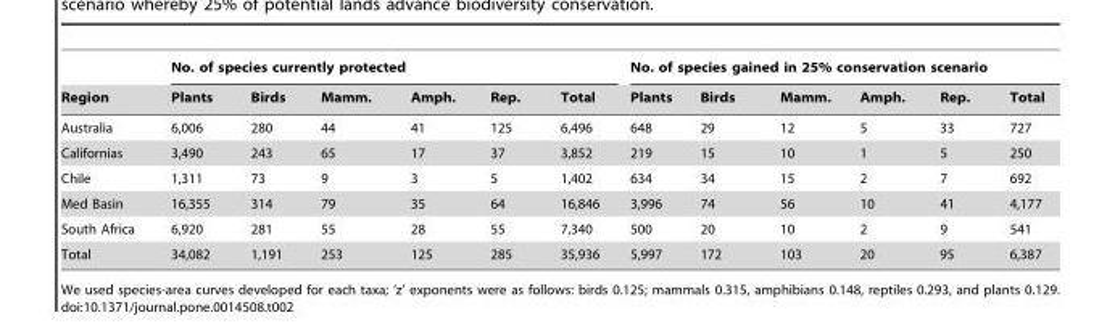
<table><thead><tr><td rowspan="2">Region</td><td colspan="6">No. of species currently protected</td><td colspan="6">No. of species gained in 25% conservation scenario</td></tr><tr><td>Plants</td><td>Birds</td><td>Mamm.</td><td>Amph.</td><td>Rep.</td><td>Total</td><td>Plants</td><td>Birds</td><td>Mamm.</td><td>Amph.</td><td>Rep.</td><td>Total</td></tr></thead><tbody><tr><td>Australia</td><td>6,006</td><td>280</td><td>44</td><td>41</td><td>125</td><td>6,496</td><td>648</td><td>29</td><td>12</td><td>5</td><td>33</td><td>727</td></tr><tr><td>Californias</td><td>3,490</td><td>243</td><td>65</td><td>17</td><td>37</td><td>3,852</td><td>219</td><td>15</td><td>10</td><td>1</td><td>5</td><td>250</td></tr><tr><td>Chile</td><td>1,311</td><td>73</td><td>9</td><td>3</td><td>5</td><td>1,402</td><td>634</td><td>34</td><td>15</td><td>2</td><td>7</td><td>692</td></tr><tr><td>Med Basin</td><td>16,355</td><td>314</td><td>79</td><td>35</td><td>64</td><td>16,846</td><td>3,996</td><td>74</td><td>56</td><td>10</td><td>41</td><td>4,177</td></tr><tr><td>South Africa</td><td>6,920</td><td>281</td><td>55</td><td>28</td><td>55</td><td>7,340</td><td>500</td><td>20</td><td>10</td><td>2</td><td>9</td><td>541</td></tr><tr><td>Total</td><td>34,082</td><td>1,191</td><td>253</td><td>125</td><td>285</td><td>35,936</td><td>5,997</td><td>172</td><td>103</td><td>20</td><td>95</td><td>6,387</td></tr></tbody></table>